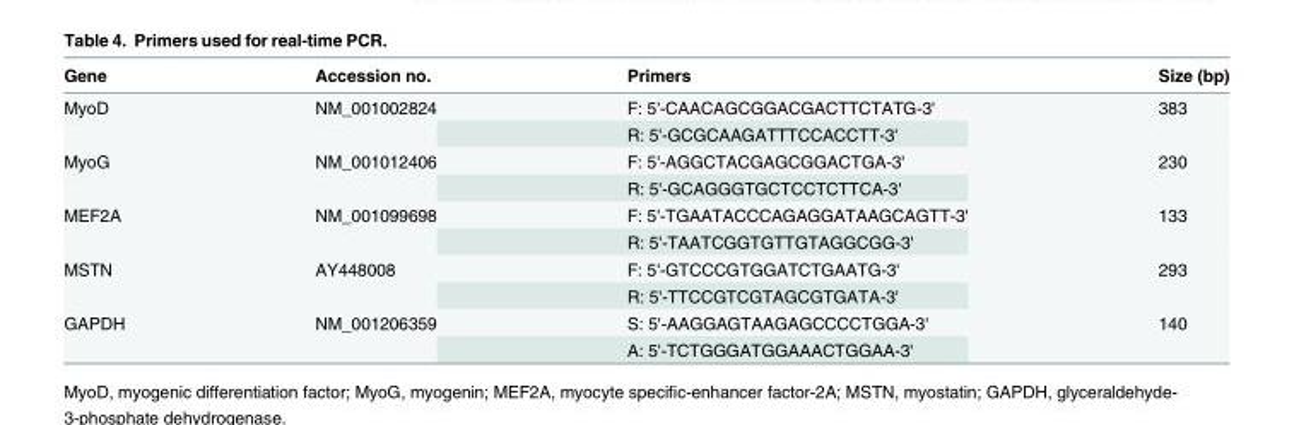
<table><thead><tr><td>Gene</td><td>Accession no.</td><td>Primers</td><td>Size (bp)</td></tr></thead><tbody><tr><td rowspan="2">MyoD</td><td rowspan="2">NM_001002824</td><td>F: 5&#x27;-CAACAGCGGACGACTTCTATG-3&#x27;</td><td rowspan="2">383</td></tr><tr><td>R: 5&#x27;-GCGCAAGATTTCCACCTT-3&#x27;</td></tr><tr><td rowspan="2">MyoG</td><td rowspan="2">NM_001012406</td><td>F: 5&#x27;-AGGCTACGAGCGGACTGA-3&#x27;</td><td rowspan="2">230</td></tr><tr><td>R: 5&#x27;-GCAGGGTGCTCCTCTTCA-3&#x27;</td></tr><tr><td rowspan="2">MEF2A</td><td rowspan="2">NM_001099698</td><td>F: 5&#x27;-TGAATACCCAGAGGATAAGCAGTT-3&#x27;</td><td rowspan="2">133</td></tr><tr><td>R: 5&#x27;-TAATCGGTGTTGTAGGCGG-3&#x27;</td></tr><tr><td rowspan="2">MSTN</td><td rowspan="2">AY448008</td><td>F: 5&#x27;-GTCCCGTGGATCTGAATG-3&#x27;</td><td rowspan="2">293</td></tr><tr><td>R: 5&#x27;-TTCCGTCGTAGCGTGATA-3&#x27;</td></tr><tr><td rowspan="2">GAPDH</td><td rowspan="2">NM_001206359</td><td>S: 5&#x27;-AAGGAGTAAGAGCCCCTGGA-3&#x27;</td><td rowspan="2">140</td></tr><tr><td>A: 5&#x27;-TCTGGGATGGAAACTGGAA-3&#x27;</td></tr></tbody></table>